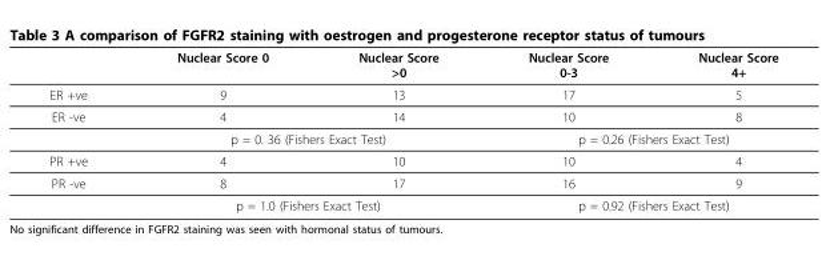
<table><thead><tr><td></td><td>Nuclear Score 0</td><td>Nuclear Score &gt;0</td><td>Nuclear Score 0-3</td><td>Nuclear Score 4+</td></tr></thead><tbody><tr><td>ER +ve</td><td>9</td><td>13</td><td>17</td><td>5</td></tr><tr><td rowspan="2">ER -ve</td><td>4</td><td>14</td><td>10</td><td>8</td></tr><tr><td colspan="2">p = 0. 36 (Fishers Exact Test)</td><td colspan="2">p = 0.26 (Fishers Exact Test)</td></tr><tr><td>PR +ve</td><td>4</td><td>10</td><td>10</td><td>4</td></tr><tr><td rowspan="2">PR -ve</td><td>8</td><td>17</td><td>16</td><td>9</td></tr><tr><td colspan="2">p = 1.0 (Fishers Exact Test)</td><td colspan="2">p = 0.92 (Fishers Exact Test)</td></tr></tbody></table>